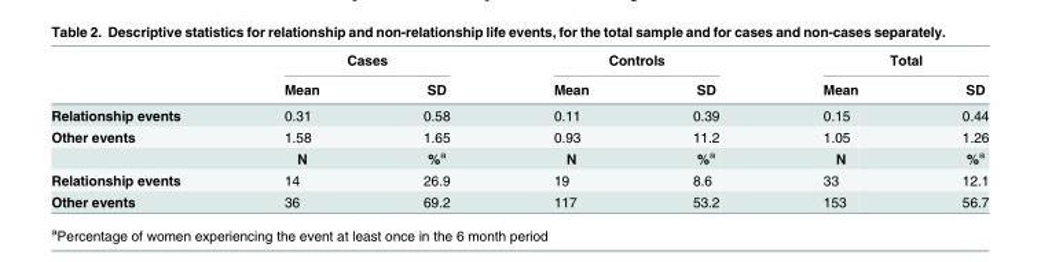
<table><thead><tr><td rowspan="2"></td><td colspan="2">Cases</td><td colspan="2">Controls</td><td colspan="2">Total</td></tr><tr><td>Mean</td><td>SD</td><td>Mean</td><td>SD</td><td>Mean</td><td>SD</td></tr></thead><tbody><tr><td>Relationship events</td><td>0.31</td><td>0.58</td><td>0.11</td><td>0.39</td><td>0.15</td><td>0.44</td></tr><tr><td rowspan="2">Other events</td><td>1.58</td><td>1.65</td><td>0.93</td><td>11.2</td><td>1.05</td><td>1.26</td></tr><tr><td>N</td><td>%<sup>a</sup></td><td>N</td><td>%<sup>a</sup></td><td>N</td><td>%<sup>a</sup></td></tr><tr><td>Relationship events</td><td>14</td><td>26.9</td><td>19</td><td>8.6</td><td>33</td><td>12.1</td></tr><tr><td>Other events</td><td>36</td><td>69.2</td><td>117</td><td>53.2</td><td>153</td><td>56.7</td></tr></tbody></table>